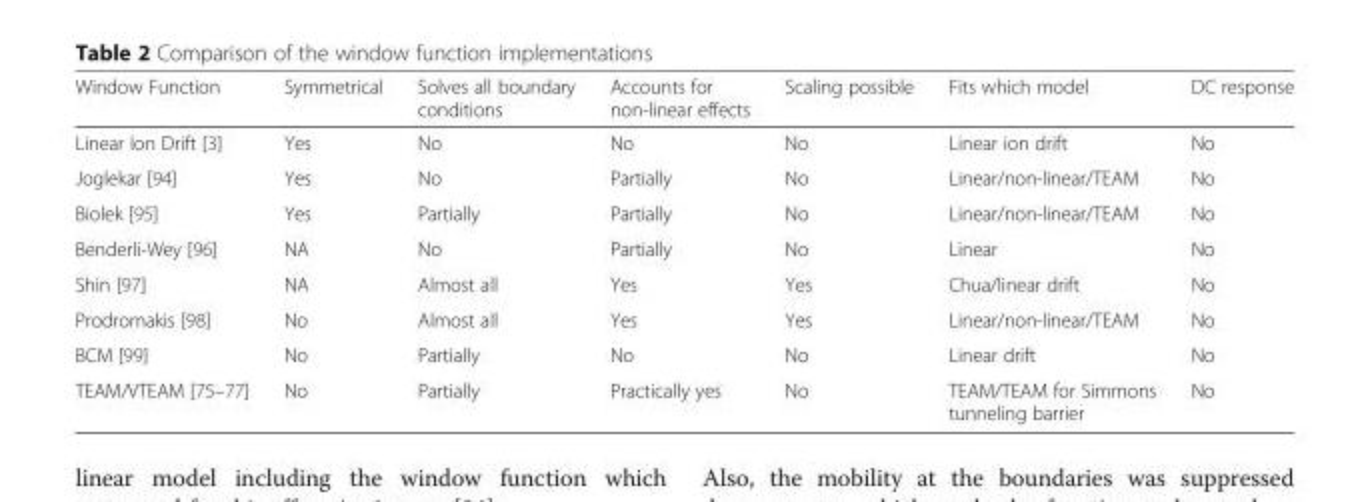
<table><thead><tr><td>Window Function</td><td>Symmetrical</td><td>Solves all boundary conditions</td><td>Accounts for non-linear effects</td><td>Scaling possible</td><td>Fits which model</td><td>DC response</td></tr></thead><tbody><tr><td>Linear Ion Drift [3]</td><td>Yes</td><td>No</td><td>No</td><td>No</td><td>Linear ion drift</td><td>No</td></tr><tr><td>Joglekar [94]</td><td>Yes</td><td>No</td><td>Partially</td><td>No</td><td>Linear/non-linear/TEAM</td><td>No</td></tr><tr><td>Biolek [95]</td><td>Yes</td><td>Partially</td><td>Partially</td><td>No</td><td>Linear/non-linear/TEAM</td><td>No</td></tr><tr><td>Benderli-Wey [96]</td><td>NA</td><td>No</td><td>Partially</td><td>No</td><td>Linear</td><td>No</td></tr><tr><td>Shin [97]</td><td>NA</td><td>Almost all</td><td>Yes</td><td>Yes</td><td>Chua/linear drift</td><td>No</td></tr><tr><td>Prodromakis [98]</td><td>No</td><td>Almost all</td><td>Yes</td><td>Yes</td><td>Linear/non-linear/TEAM</td><td>No</td></tr><tr><td>BCM [99]</td><td>No</td><td>Partially</td><td>No</td><td>No</td><td>Linear drift</td><td>No</td></tr><tr><td>TEAM/VTEAM [75–77]</td><td>No</td><td>Partially</td><td>Practically yes</td><td>No</td><td>TEAM/TEAM for Simmons tunneling barrier</td><td>No</td></tr></tbody></table>